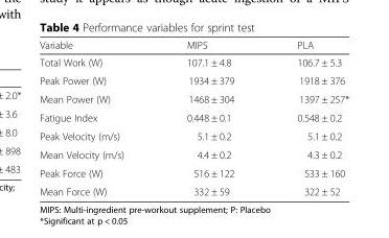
<table><thead><tr><td>Variable</td><td>MIPS</td><td>PLA</td></tr></thead><tbody><tr><td>Total Work (W)</td><td>107.1 ± 4.8</td><td>106.7 ± 5.3</td></tr><tr><td>Peak Power (W)</td><td>1934 ± 379</td><td>1918 ± 376</td></tr><tr><td>Mean Power (W)</td><td>1468 ± 304</td><td>1397 ± 257*</td></tr><tr><td>Fatigue Index</td><td>0.448 ± 0.1</td><td>0.548 ± 0.2</td></tr><tr><td>Peak Velocity (m/s)</td><td>5.1 ± 0.2</td><td>5.1 ± 0.2</td></tr><tr><td>Mean Velocity (m/s)</td><td>4.4 ± 0.2</td><td>4.3 ± 0.2</td></tr><tr><td>Peak Force (W)</td><td>516 ± 122</td><td>533 ± 160</td></tr><tr><td>Mean Force (W)</td><td>332 ± 59</td><td>322 ± 52</td></tr></tbody></table>